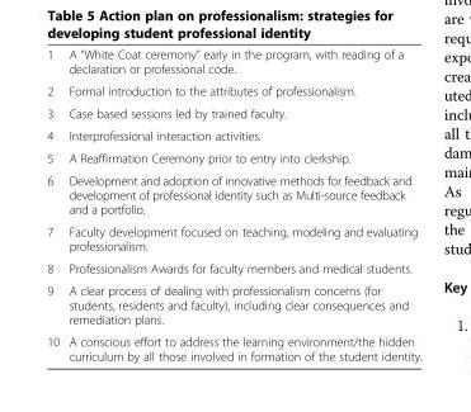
<table><tbody><tr><td>1</td><td>A “White Coat ceremony” early in the program, with reading of a declaration or professional code.</td></tr><tr><td>2</td><td>Formal introduction to the attributes of professionalism.</td></tr><tr><td>3</td><td>Case based sessions led by trained faculty.</td></tr><tr><td>4</td><td>Interprofessional interaction activities.</td></tr><tr><td>5</td><td>A Reaffirmation Ceremony prior to entry into clerkship.</td></tr><tr><td>6</td><td>Development and adoption of innovative methods for feedback and development of professional identity such as Multi-source feedback and a portfolio.</td></tr><tr><td>7</td><td>Faculty development focused on teaching, modeling and evaluating professionalism.</td></tr><tr><td>8</td><td>Professionalism Awards for faculty members and medical students.</td></tr><tr><td>9</td><td>A clear process of dealing with professionalism concerns (for students, residents and faculty), including clear consequences and remediation plans.</td></tr><tr><td>10</td><td>A conscious effort to address the learning environment/the hidden curriculum by all those involved in formation of the student identity.</td></tr></tbody></table>